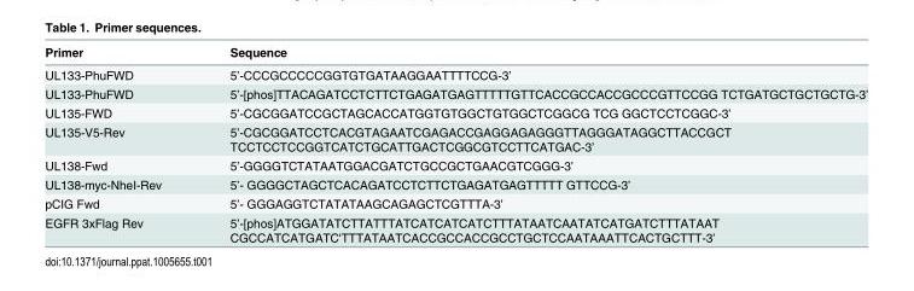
<table><thead><tr><td>Primer</td><td>Sequence</td></tr></thead><tbody><tr><td>UL133-PhuFWD</td><td>5’-CCCGCCCCCGGTGTGATAAGGAATTTTCCG-3’</td></tr><tr><td>UL133-PhuFWD</td><td>5’-[phos]TTACAGATCCTCTTCTGAGATGAGTTTTTGTTCACCGCCACCGCCCGTTCCGG TCTGATGCTGCTGCTG-3’</td></tr><tr><td>UL135-FWD</td><td>5’-CGCGGATCCGCTAGCACCATGGTGTGGCTGTGGCTCGGCG TCG GGCTCCTCGGC-3’</td></tr><tr><td>UL135-V5-Rev</td><td>5’-CGCGGATCCTCACGTAGAATCGAGACCGAGGAGAGGGTTAGGGATAGGCTTACCGCT TCCTCCTCCGGTCATCTGCATTGACTCGGCGTCCTTCATGAC-3’</td></tr><tr><td>UL138-Fwd</td><td>5’-GGGGTCTATAATGGACGATCTGCCGCTGAACGTCGGG-3’</td></tr><tr><td>UL138-myc-NheI-Rev</td><td>5’- GGGGCTAGCTCACAGATCCTCTTCTGAGATGAGTTTTT GTTCCG-3’</td></tr><tr><td>pCIG Fwd</td><td>5’- GGGAGGTCTATATAAGCAGAGCTCGTTTA-3’</td></tr><tr><td>EGFR 3xFlag Rev</td><td>5’-[phos]ATGGATATCTTATTTATCATCATCATCTTTATAATCAATATCATGATCTTTATAAT CGCCATCATGATC&#x27;TTTATAATCACCGCCACCGCCTGCTCCAATAAATTCACTGCTTT-3’</td></tr></tbody></table>